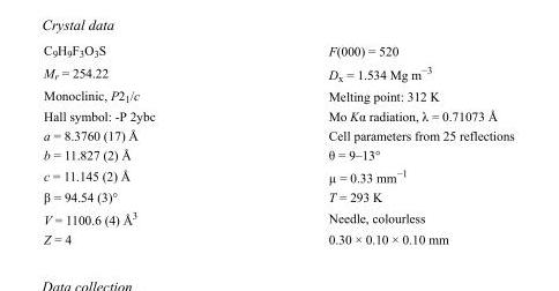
<table><tbody><tr><td>C<sub>9</sub>H<sub>9</sub>F<sub>3</sub>O<sub>3</sub>S</td><td>F(000) = 520</td></tr><tr><td>M<sub>r</sub> = 254.22</td><td>D<sub>x</sub> = 1.534 Mg m<sup>−3</sup></td></tr><tr><td>Monoclinic, P2<sub>1</sub>/c</td><td>Melting point: 312 K</td></tr><tr><td>Hall symbol: -P 2ybc</td><td>Mo Kα radiation, λ = 0.71073 Å</td></tr><tr><td>a = 8.3760 (17) Å</td><td>Cell parameters from 25 reflections</td></tr><tr><td>b = 11.827 (2) Å</td><td>θ = 9–13°</td></tr><tr><td>c = 11.145 (2) Å</td><td>µ = 0.33 mm<sup>−1</sup></td></tr><tr><td>β = 94.54 (3)°</td><td>T = 293 K</td></tr><tr><td>V = 1100.6 (4) Å<sup>3</sup></td><td>Needle, colourless</td></tr><tr><td>Z = 4</td><td>0.30 × 0.10 × 0.10 mm</td></tr></tbody></table>